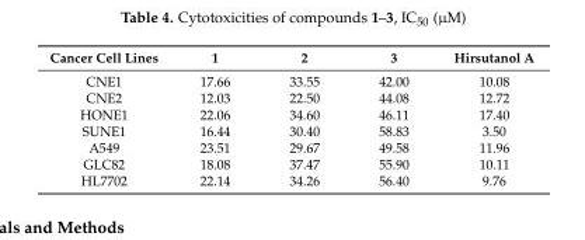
<table><thead><tr><td>Cancer Cell Lines</td><td>1</td><td>2</td><td>3</td><td>Hirsutanol A</td></tr></thead><tbody><tr><td>CNE1</td><td>17.66</td><td>33.55</td><td>42.00</td><td>10.08</td></tr><tr><td>CNE2</td><td>12.03</td><td>22.50</td><td>44.08</td><td>12.72</td></tr><tr><td>HONE1</td><td>22.06</td><td>34.60</td><td>46.11</td><td>17.40</td></tr><tr><td>SUNE1</td><td>16.44</td><td>30.40</td><td>58.83</td><td>3.50</td></tr><tr><td>A549</td><td>23.51</td><td>29.67</td><td>49.58</td><td>11.96</td></tr><tr><td>GLC82</td><td>18.08</td><td>37.47</td><td>55.90</td><td>10.11</td></tr><tr><td>HL7702</td><td>22.14</td><td>34.26</td><td>56.40</td><td>9.76</td></tr></tbody></table>